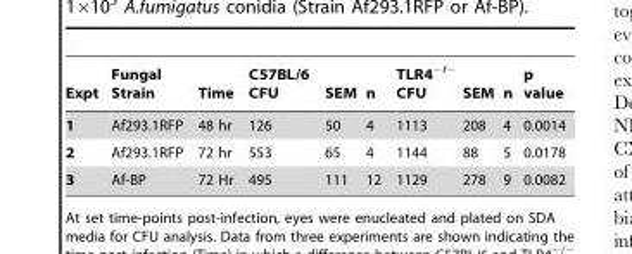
<table><thead><tr><td>Expt</td><td>Fungal Strain</td><td>Time</td><td>C57BL/6 CFU</td><td>SEM</td><td>n</td><td>TLR4<sup>−/−</sup> CFU</td><td>SEM</td><td>n</td><td>p value</td></tr></thead><tbody><tr><td>1</td><td>Af293.1RFP</td><td>48 hr</td><td>126</td><td>50</td><td>4</td><td>1113</td><td>208</td><td>4</td><td>0.0014</td></tr><tr><td>2</td><td>Af293.1RFP</td><td>72 hr</td><td>553</td><td>65</td><td>4</td><td>1144</td><td>88</td><td>5</td><td>0.0178</td></tr><tr><td>3</td><td>Af-BP</td><td>72 Hr</td><td>495</td><td>111</td><td>12</td><td>1129</td><td>278</td><td>9</td><td>0.0082</td></tr></tbody></table>